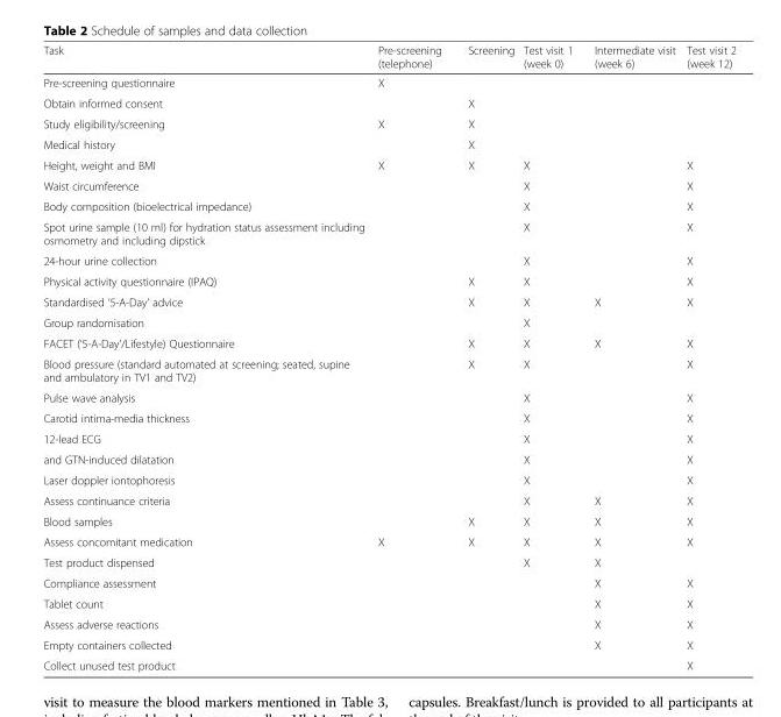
<table><thead><tr><td>Task</td><td>Pre-screening (telephone)</td><td>Screening</td><td>Test visit 1 (week 0)</td><td>Intermediate visit (week 6)</td><td>Test visit 2 (week 12)</td></tr></thead><tbody><tr><td>Pre-screening questionnaire</td><td>X</td><td></td><td></td><td></td><td></td></tr><tr><td>Obtain informed consent</td><td></td><td>X</td><td></td><td></td><td></td></tr><tr><td>Study eligibility/screening</td><td>X</td><td>X</td><td></td><td></td><td></td></tr><tr><td>Medical history</td><td></td><td>X</td><td></td><td></td><td></td></tr><tr><td>Height, weight and BMI</td><td>X</td><td>X</td><td>X</td><td></td><td>X</td></tr><tr><td>Waist circumference</td><td></td><td></td><td>X</td><td></td><td>X</td></tr><tr><td>Body composition (bioelectrical impedance)</td><td></td><td></td><td>X</td><td></td><td>X</td></tr><tr><td>Spot urine sample (10 ml) for hydration status assessment including osmometry and including dipstick</td><td></td><td></td><td>X</td><td></td><td>X</td></tr><tr><td>24-hour urine collection</td><td></td><td></td><td>X</td><td></td><td>X</td></tr><tr><td>Physical activity questionnaire (IPAQ)</td><td></td><td>X</td><td>X</td><td></td><td>X</td></tr><tr><td>Standardised ‘5-A-Day’ advice</td><td></td><td>X</td><td>X</td><td>X</td><td>X</td></tr><tr><td>Group randomisation</td><td></td><td></td><td>X</td><td></td><td></td></tr><tr><td>FACET (‘5-A-Day’/Lifestyle) Questionnaire</td><td></td><td>X</td><td>X</td><td>X</td><td>X</td></tr><tr><td>Blood pressure (standard automated at screening; seated, supine and ambulatory in TV1 and TV2)</td><td></td><td>X</td><td>X</td><td></td><td>X</td></tr><tr><td>Pulse wave analysis</td><td></td><td></td><td>X</td><td></td><td>X</td></tr><tr><td>Carotid intima-media thickness</td><td></td><td></td><td>X</td><td></td><td>X</td></tr><tr><td>12-lead ECG</td><td></td><td></td><td>X</td><td></td><td>X</td></tr><tr><td>and GTN-induced dilatation</td><td></td><td></td><td>X</td><td></td><td>X</td></tr><tr><td>Laser doppler iontophoresis</td><td></td><td></td><td>X</td><td></td><td>X</td></tr><tr><td>Assess continuance criteria</td><td></td><td></td><td>X</td><td>X</td><td>X</td></tr><tr><td>Blood samples</td><td></td><td>X</td><td>X</td><td>X</td><td>X</td></tr><tr><td>Assess concomitant medication</td><td>X</td><td>X</td><td>X</td><td>X</td><td>X</td></tr><tr><td>Test product dispensed</td><td></td><td></td><td>X</td><td>X</td><td></td></tr><tr><td>Compliance assessment</td><td></td><td></td><td></td><td>X</td><td>X</td></tr><tr><td>Tablet count</td><td></td><td></td><td></td><td>X</td><td>X</td></tr><tr><td>Assess adverse reactions</td><td></td><td></td><td></td><td>X</td><td>X</td></tr><tr><td>Empty containers collected</td><td></td><td></td><td></td><td>X</td><td>X</td></tr><tr><td>Collect unused test product</td><td></td><td></td><td></td><td></td><td>X</td></tr></tbody></table>